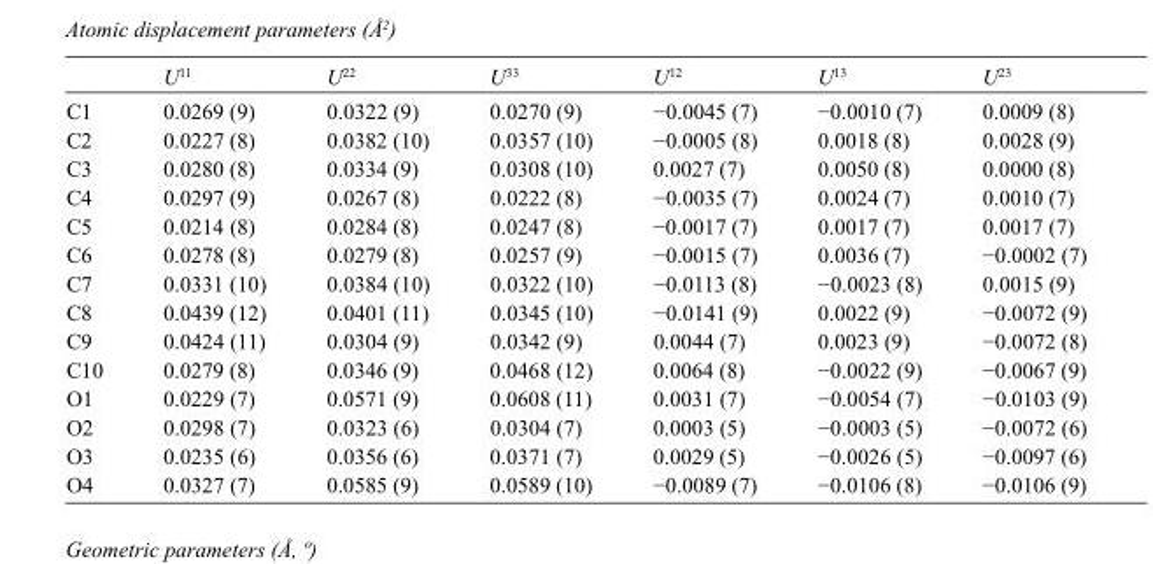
<table><thead><tr><td></td><td>U<sup>11</sup></td><td>U<sup>22</sup></td><td>U<sup>33</sup></td><td>U<sup>12</sup></td><td>U<sup>13</sup></td><td>U<sup>23</sup></td></tr></thead><tbody><tr><td>C1</td><td>0.0269 (9)</td><td>0.0322 (9)</td><td>0.0270 (9)</td><td>−0.0045 (7)</td><td>−0.0010 (7)</td><td>0.0009 (8)</td></tr><tr><td>C2</td><td>0.0227 (8)</td><td>0.0382 (10)</td><td>0.0357 (10)</td><td>−0.0005 (8)</td><td>0.0018 (8)</td><td>0.0028 (9)</td></tr><tr><td>C3</td><td>0.0280 (8)</td><td>0.0334 (9)</td><td>0.0308 (10)</td><td>0.0027 (7)</td><td>0.0050 (8)</td><td>0.0000 (8)</td></tr><tr><td>C4</td><td>0.0297 (9)</td><td>0.0267 (8)</td><td>0.0222 (8)</td><td>−0.0035 (7)</td><td>0.0024 (7)</td><td>0.0010 (7)</td></tr><tr><td>C5</td><td>0.0214 (8)</td><td>0.0284 (8)</td><td>0.0247 (8)</td><td>−0.0017 (7)</td><td>0.0017 (7)</td><td>0.0017 (7)</td></tr><tr><td>C6</td><td>0.0278 (8)</td><td>0.0279 (8)</td><td>0.0257 (9)</td><td>−0.0015 (7)</td><td>0.0036 (7)</td><td>−0.0002 (7)</td></tr><tr><td>C7</td><td>0.0331 (10)</td><td>0.0384 (10)</td><td>0.0322 (10)</td><td>−0.0113 (8)</td><td>−0.0023 (8)</td><td>0.0015 (9)</td></tr><tr><td>C8</td><td>0.0439 (12)</td><td>0.0401 (11)</td><td>0.0345 (10)</td><td>−0.0141 (9)</td><td>0.0022 (9)</td><td>−0.0072 (9)</td></tr><tr><td>C9</td><td>0.0424 (11)</td><td>0.0304 (9)</td><td>0.0342 (9)</td><td>0.0044 (7)</td><td>0.0023 (9)</td><td>−0.0072 (8)</td></tr><tr><td>C10</td><td>0.0279 (8)</td><td>0.0346 (9)</td><td>0.0468 (12)</td><td>0.0064 (8)</td><td>−0.0022 (9)</td><td>−0.0067 (9)</td></tr><tr><td>O1</td><td>0.0229 (7)</td><td>0.0571 (9)</td><td>0.0608 (11)</td><td>0.0031 (7)</td><td>−0.0054 (7)</td><td>−0.0103 (9)</td></tr><tr><td>O2</td><td>0.0298 (7)</td><td>0.0323 (6)</td><td>0.0304 (7)</td><td>0.0003 (5)</td><td>−0.0003 (5)</td><td>−0.0072 (6)</td></tr><tr><td>O3</td><td>0.0235 (6)</td><td>0.0356 (6)</td><td>0.0371 (7)</td><td>0.0029 (5)</td><td>−0.0026 (5)</td><td>−0.0097 (6)</td></tr><tr><td>O4</td><td>0.0327 (7)</td><td>0.0585 (9)</td><td>0.0589 (10)</td><td>−0.0089 (7)</td><td>−0.0106 (8)</td><td>−0.0106 (9)</td></tr></tbody></table>